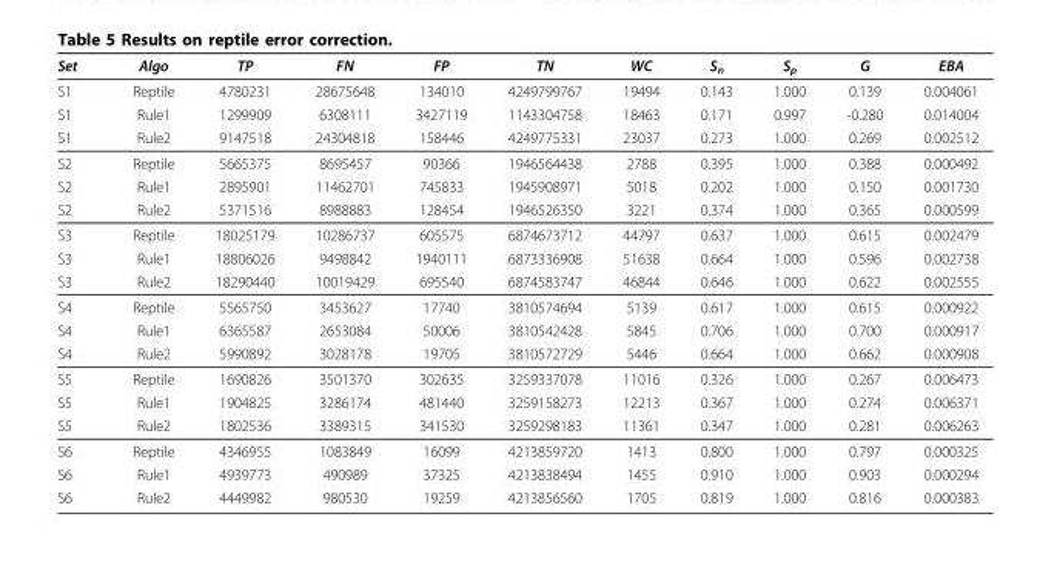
<table><thead><tr><td>Set</td><td>Algo</td><td>TP</td><td>FN</td><td>FP</td><td>TN</td><td>WC</td><td>S<sub>n</sub></td><td>S<sub>p</sub></td><td>G</td><td>EBA</td></tr></thead><tbody><tr><td>S1</td><td>Reptile</td><td>4780231</td><td>28675648</td><td>134010</td><td>4249799767</td><td>19494</td><td>0.143</td><td>1.000</td><td>0.139</td><td>0.004061</td></tr><tr><td>S1</td><td>Rule1</td><td>1299909</td><td>6308111</td><td>3427119</td><td>1143304758</td><td>18463</td><td>0.171</td><td>0.997</td><td>-0.280</td><td>0.014004</td></tr><tr><td>S1</td><td>Rule2</td><td>9147518</td><td>24304818</td><td>158446</td><td>4249775331</td><td>23037</td><td>0.273</td><td>1.000</td><td>0.269</td><td>0.002512</td></tr><tr><td>S2</td><td>Reptile</td><td>5665375</td><td>8695457</td><td>90366</td><td>1946564438</td><td>2788</td><td>0.395</td><td>1.000</td><td>0.388</td><td>0.000492</td></tr><tr><td>S2</td><td>Rule1</td><td>2895901</td><td>11462701</td><td>745833</td><td>1945908971</td><td>5018</td><td>0.202</td><td>1.000</td><td>0.150</td><td>0.001730</td></tr><tr><td>S2</td><td>Rule2</td><td>5371516</td><td>8988883</td><td>128454</td><td>1946526350</td><td>3221</td><td>0.374</td><td>1.000</td><td>0.365</td><td>0.000599</td></tr><tr><td>S3</td><td>Reptile</td><td>18025179</td><td>10286737</td><td>605575</td><td>6874673712</td><td>44797</td><td>0.637</td><td>1.000</td><td>0.615</td><td>0.002479</td></tr><tr><td>S3</td><td>Rule1</td><td>18806026</td><td>9498842</td><td>1940111</td><td>6873336908</td><td>51638</td><td>0.664</td><td>1.000</td><td>0.596</td><td>0.002738</td></tr><tr><td>S3</td><td>Rule2</td><td>18290440</td><td>10019429</td><td>695540</td><td>6874583747</td><td>46844</td><td>0.646</td><td>1.000</td><td>0.622</td><td>0.002555</td></tr><tr><td>S4</td><td>Reptile</td><td>5565750</td><td>3453627</td><td>17740</td><td>3810574694</td><td>5139</td><td>0.617</td><td>1.000</td><td>0.615</td><td>0.000922</td></tr><tr><td>S4</td><td>Rule1</td><td>6365587</td><td>2653084</td><td>50006</td><td>3810542428</td><td>5845</td><td>0.706</td><td>1.000</td><td>0.700</td><td>0.000917</td></tr><tr><td>S4</td><td>Rule2</td><td>5990892</td><td>3028178</td><td>19705</td><td>3810572729</td><td>5446</td><td>0.664</td><td>1.000</td><td>0.662</td><td>0.000908</td></tr><tr><td>S5</td><td>Reptile</td><td>1690826</td><td>3501370</td><td>302635</td><td>3259337078</td><td>11016</td><td>0.326</td><td>1.000</td><td>0.267</td><td>0.006473</td></tr><tr><td>S5</td><td>Rule1</td><td>1904825</td><td>3286174</td><td>481440</td><td>3259158273</td><td>12213</td><td>0.367</td><td>1.000</td><td>0.274</td><td>0.006371</td></tr><tr><td>S5</td><td>Rule2</td><td>1802536</td><td>3389315</td><td>341530</td><td>3259298183</td><td>11361</td><td>0.347</td><td>1.000</td><td>0.281</td><td>0.006263</td></tr><tr><td>S6</td><td>Reptile</td><td>4346955</td><td>1083849</td><td>16099</td><td>4213859720</td><td>1413</td><td>0.800</td><td>1.000</td><td>0.797</td><td>0.000325</td></tr><tr><td>S6</td><td>Rule1</td><td>4939773</td><td>490989</td><td>37325</td><td>4213838494</td><td>1455</td><td>0.910</td><td>1.000</td><td>0.903</td><td>0.000294</td></tr><tr><td>S6</td><td>Rule2</td><td>4449982</td><td>980530</td><td>19259</td><td>4213856560</td><td>1705</td><td>0.819</td><td>1.000</td><td>0.816</td><td>0.000383</td></tr></tbody></table>